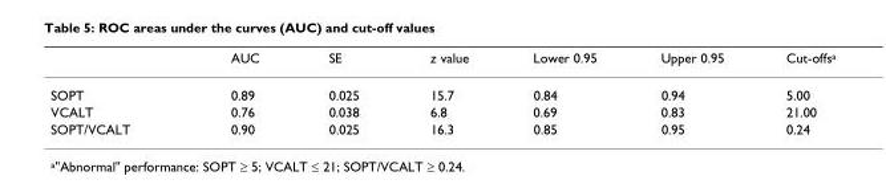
<table><thead><tr><td></td><td>AUC</td><td>SE</td><td>z value</td><td>Lower 0.95</td><td>Upper 0.95</td><td>Cut-offs<sup>a</sup></td></tr></thead><tbody><tr><td>SOPT</td><td>0.89</td><td>0.025</td><td>15.7</td><td>0.84</td><td>0.94</td><td>5.00</td></tr><tr><td>VCALT</td><td>0.76</td><td>0.038</td><td>6.8</td><td>0.69</td><td>0.83</td><td>21.00</td></tr><tr><td>SOPT/VCALT</td><td>0.90</td><td>0.025</td><td>16.3</td><td>0.85</td><td>0.95</td><td>0.24</td></tr></tbody></table>